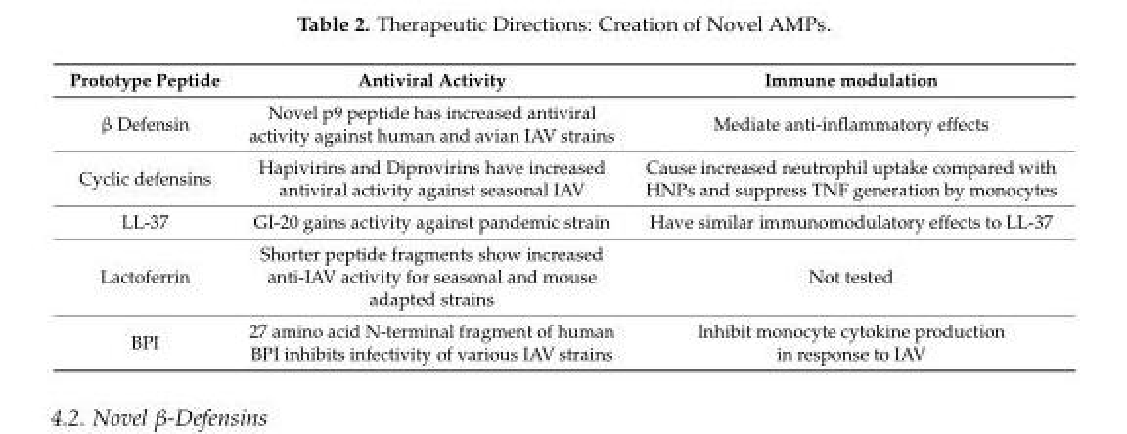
<table><thead><tr><td>Prototype Peptide</td><td>Antiviral Activity</td><td>Immune modulation</td></tr></thead><tbody><tr><td>β Defensin</td><td>Novel p9 peptide has increased antiviral activity against human and avian IAV strains</td><td>Mediate anti-inflammatory effects</td></tr><tr><td>Cyclic defensins</td><td>Hapivirins and Diprovirins have increased antiviral activity against seasonal IAV</td><td>Cause increased neutrophil uptake compared with HNPs and suppress TNF generation by monocytes</td></tr><tr><td>LL-37</td><td>GI-20 gains activity against pandemic strain</td><td>Have similar immunomodulatory effects to LL-37</td></tr><tr><td>Lactoferrin</td><td>Shorter peptide fragments show increased anti-IAV activity for seasonal and mouse adapted strains</td><td>Not tested</td></tr><tr><td>BPI</td><td>27 amino acid N-terminal fragment of human BPI inhibits infectivity of various IAV strains</td><td>Inhibit monocyte cytokine production in response to IAV</td></tr></tbody></table>